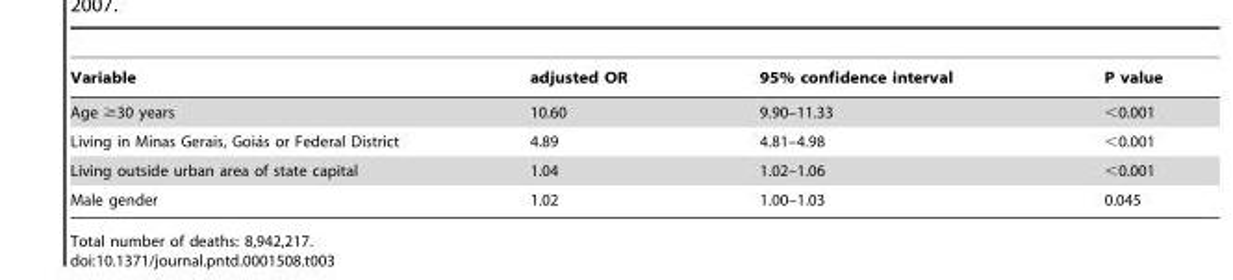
<table><thead><tr><td>Variable</td><td>adjusted OR</td><td>95% confidence interval</td><td>P value</td></tr></thead><tbody><tr><td>Age ≥30 years</td><td>10.60</td><td>9.90–11.33</td><td>&lt;0.001</td></tr><tr><td>Living in Minas Gerais, Goia´s or Federal District</td><td>4.89</td><td>4.81–4.98</td><td>&lt;0.001</td></tr><tr><td>Living outside urban area of state capital</td><td>1.04</td><td>1.02–1.06</td><td>&lt;0.001</td></tr><tr><td>Male gender</td><td>1.02</td><td>1.00–1.03</td><td>0.045</td></tr></tbody></table>